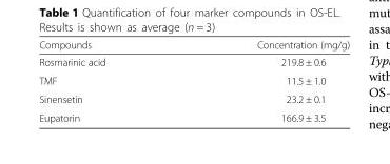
<table><thead><tr><td>Compounds</td><td>Concentration (mg/g)</td></tr></thead><tbody><tr><td>Rosmarinic acid</td><td>219.8 ± 0.6</td></tr><tr><td>TMF</td><td>11.5 ± 1.0</td></tr><tr><td>Sinensetin</td><td>23.2 ± 0.1</td></tr><tr><td>Eupatorin</td><td>166.9 ± 3.5</td></tr></tbody></table>